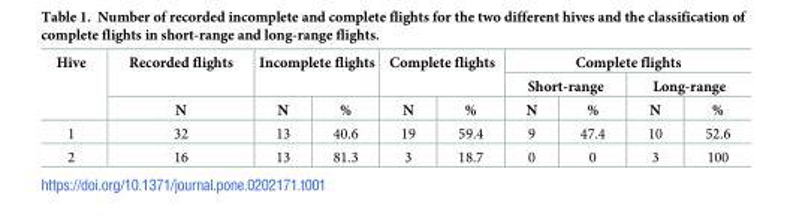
<table><thead><tr><td rowspan="3">Hive</td><td rowspan="3">Recorded flights N</td><td rowspan="2" colspan="2">Incomplete flights</td><td rowspan="2" colspan="2">Complete flights</td><td colspan="4">Complete flights</td></tr><tr><td colspan="2">Short-range</td><td colspan="2">Long-range</td></tr><tr><td>N</td><td>%</td><td>N</td><td>%</td><td>N</td><td>%</td><td>N</td><td>%</td></tr></thead><tbody><tr><td>1</td><td>32</td><td>13</td><td>40.6</td><td>19</td><td>59.4</td><td>9</td><td>47.4</td><td>10</td><td>52.6</td></tr><tr><td>2</td><td>16</td><td>13</td><td>81.3</td><td>3</td><td>18.7</td><td>0</td><td>0</td><td>3</td><td>100</td></tr></tbody></table>